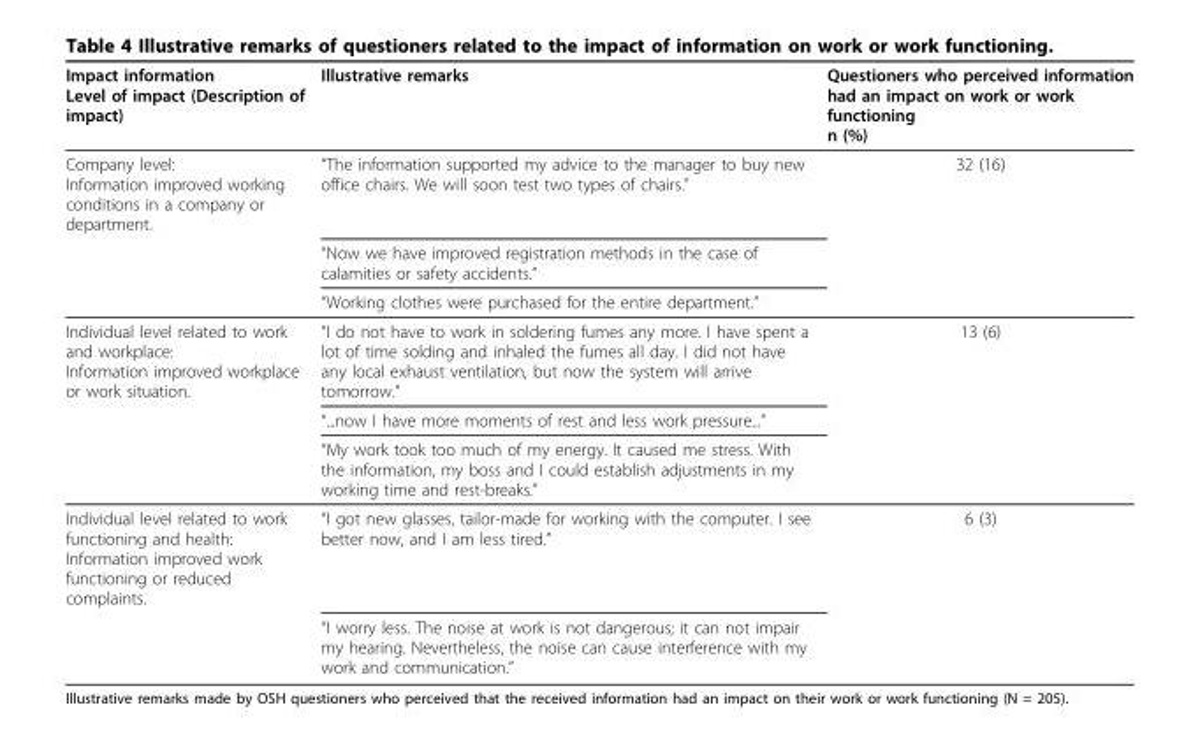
<table><thead><tr><td>Impact information Level of impact (Description of impact)</td><td>Illustrative remarks</td><td>Questioners who perceived information had an impact on work or work functioning n (%)</td></tr></thead><tbody><tr><td rowspan="3">Company level: Information improved working conditions in a company or department.</td><td>“The information supported my advice to the manager to buy new office chairs. We will soon test two types of chairs.”</td><td>32 (16)</td></tr><tr><td>“Now we have improved registration methods in the case of calamities or safety accidents.”</td><td></td></tr><tr><td>“Working clothes were purchased for the entire department.”</td><td></td></tr><tr><td rowspan="3">Individual level related to work and workplace: Information improved workplace or work situation.</td><td>“I do not have to work in soldering fumes any more. I have spent a lot of time solding and inhaled the fumes all day. I did not have any local exhaust ventilation, but now the system will arrive tomorrow.”</td><td>13 (6)</td></tr><tr><td>“...now I have more moments of rest and less work pressure...”</td><td></td></tr><tr><td>“My work took too much of my energy. It caused me stress. With the information, my boss and I could establish adjustments in my working time and rest-breaks.”</td><td></td></tr><tr><td rowspan="2">Individual level related to work functioning and health: Information improved work functioning or reduced complaints.</td><td>“I got new glasses, tailor-made for working with the computer. I see better now, and I am less tired.”</td><td>6 (3)</td></tr><tr><td>“I worry less. The noise at work is not dangerous; it can not impair my hearing. Nevertheless, the noise can cause interference with my work and communication.”</td><td></td></tr></tbody></table>